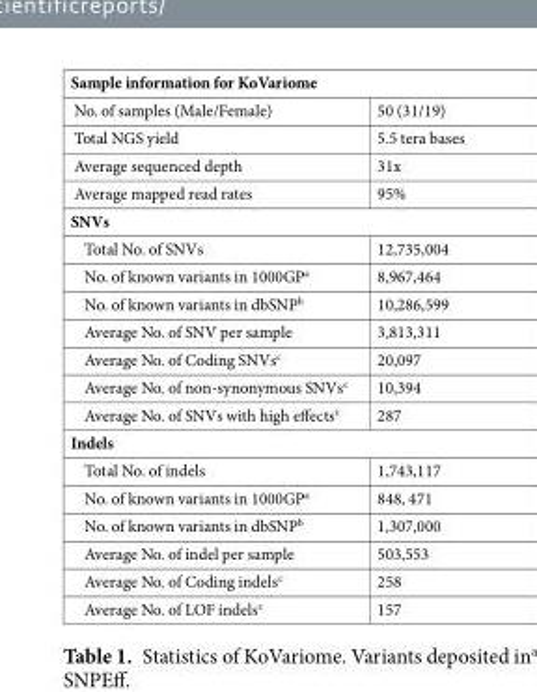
<table><tbody><tr><td colspan="2">Sample information for KoVariome</td></tr><tr><td>No. of samples (Male/Female)</td><td>50 (31/19)</td></tr><tr><td>Total NGS yield</td><td>5.5 tera bases</td></tr><tr><td>Average sequenced depth</td><td>31x</td></tr><tr><td>Average mapped read rates</td><td>95%</td></tr><tr><td colspan="2">SNVs</td></tr><tr><td>Total No. of SNVs</td><td>12,735,004</td></tr><tr><td>No. of known variants in 1000GP<sup>a</sup></td><td>8,967,464</td></tr><tr><td>No. of known variants in dbSNP<sup>b</sup></td><td>10,286,599</td></tr><tr><td>Average No. of SNV per sample</td><td>3,813,311</td></tr><tr><td>Average No. of Coding SNVs<sup>c</sup></td><td>20,097</td></tr><tr><td>Average No. of non-synonymous SNVs<sup>c</sup></td><td>10,394</td></tr><tr><td>Average No. of SNVs with high effects<sup>c</sup></td><td>287</td></tr><tr><td colspan="2">Indels</td></tr><tr><td>Total No. of indels</td><td>1,743,117</td></tr><tr><td>No. of known variants in 1000GP<sup>a</sup></td><td>848, 471</td></tr><tr><td>No. of known variants in dbSNP<sup>b</sup></td><td>1,307,000</td></tr><tr><td>Average No. of indel per sample</td><td>503,553</td></tr><tr><td>Average No. of Coding indels<sup>c</sup></td><td>258</td></tr><tr><td>Average No. of LOF indels<sup>c</sup></td><td>157</td></tr></tbody></table>